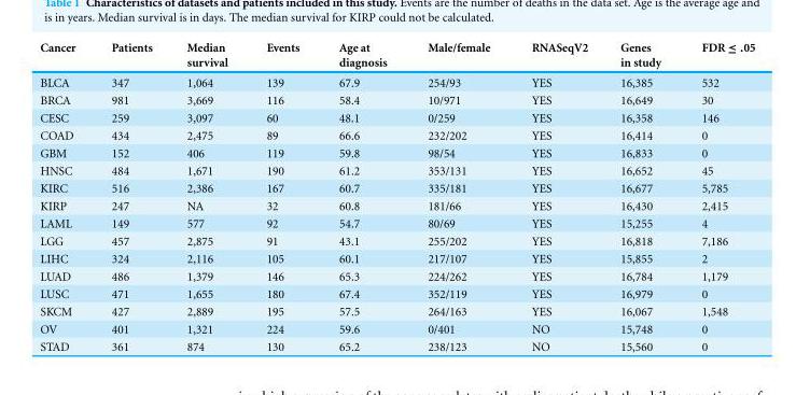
<table><thead><tr><td>Cancer</td><td>Patients</td><td>Median survival</td><td>Events</td><td>Age at diagnosis</td><td>Male/female</td><td>RNASeqV2</td><td>Genes in study</td><td>FDR ≤ .05</td></tr></thead><tbody><tr><td>BLCA</td><td>347</td><td>1,064</td><td>139</td><td>67.9</td><td>254/93</td><td>YES</td><td>16,385</td><td>532</td></tr><tr><td>BRCA</td><td>981</td><td>3,669</td><td>116</td><td>58.4</td><td>10/971</td><td>YES</td><td>16,649</td><td>30</td></tr><tr><td>CESC</td><td>259</td><td>3,097</td><td>60</td><td>48.1</td><td>0/259</td><td>YES</td><td>16,358</td><td>146</td></tr><tr><td>COAD</td><td>434</td><td>2,475</td><td>89</td><td>66.6</td><td>232/202</td><td>YES</td><td>16,414</td><td>0</td></tr><tr><td>GBM</td><td>152</td><td>406</td><td>119</td><td>59.8</td><td>98/54</td><td>YES</td><td>16,833</td><td>0</td></tr><tr><td>HNSC</td><td>484</td><td>1,671</td><td>190</td><td>61.2</td><td>353/131</td><td>YES</td><td>16,652</td><td>45</td></tr><tr><td>KIRC</td><td>516</td><td>2,386</td><td>167</td><td>60.7</td><td>335/181</td><td>YES</td><td>16,677</td><td>5,785</td></tr><tr><td>KIRP</td><td>247</td><td>NA</td><td>32</td><td>60.8</td><td>181/66</td><td>YES</td><td>16,430</td><td>2,415</td></tr><tr><td>LAML</td><td>149</td><td>577</td><td>92</td><td>54.7</td><td>80/69</td><td>YES</td><td>15,255</td><td>4</td></tr><tr><td>LGG</td><td>457</td><td>2,875</td><td>91</td><td>43.1</td><td>255/202</td><td>YES</td><td>16,818</td><td>7,186</td></tr><tr><td>LIHC</td><td>324</td><td>2,116</td><td>105</td><td>60.1</td><td>217/107</td><td>YES</td><td>15,855</td><td>2</td></tr><tr><td>LUAD</td><td>486</td><td>1,379</td><td>146</td><td>65.3</td><td>224/262</td><td>YES</td><td>16,784</td><td>1,179</td></tr><tr><td>LUSC</td><td>471</td><td>1,655</td><td>180</td><td>67.4</td><td>352/119</td><td>YES</td><td>16,979</td><td>0</td></tr><tr><td>SKCM</td><td>427</td><td>2,889</td><td>195</td><td>57.5</td><td>264/163</td><td>YES</td><td>16,067</td><td>1,548</td></tr><tr><td>OV</td><td>401</td><td>1,321</td><td>224</td><td>59.6</td><td>0/401</td><td>NO</td><td>15,748</td><td>0</td></tr><tr><td>STAD</td><td>361</td><td>874</td><td>130</td><td>65.2</td><td>238/123</td><td>NO</td><td>15,560</td><td>0</td></tr></tbody></table>